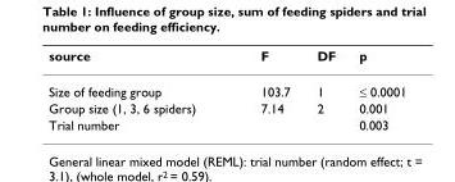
<table><thead><tr><td>source</td><td>F</td><td>DF</td><td>p</td></tr></thead><tbody><tr><td>Size of feeding group</td><td>103.7</td><td>1</td><td>≤ 0.0001</td></tr><tr><td>Group size (1, 3, 6 spiders)</td><td>7.14</td><td>2</td><td>0.001</td></tr><tr><td>Trial number</td><td></td><td></td><td>0.003</td></tr></tbody></table>